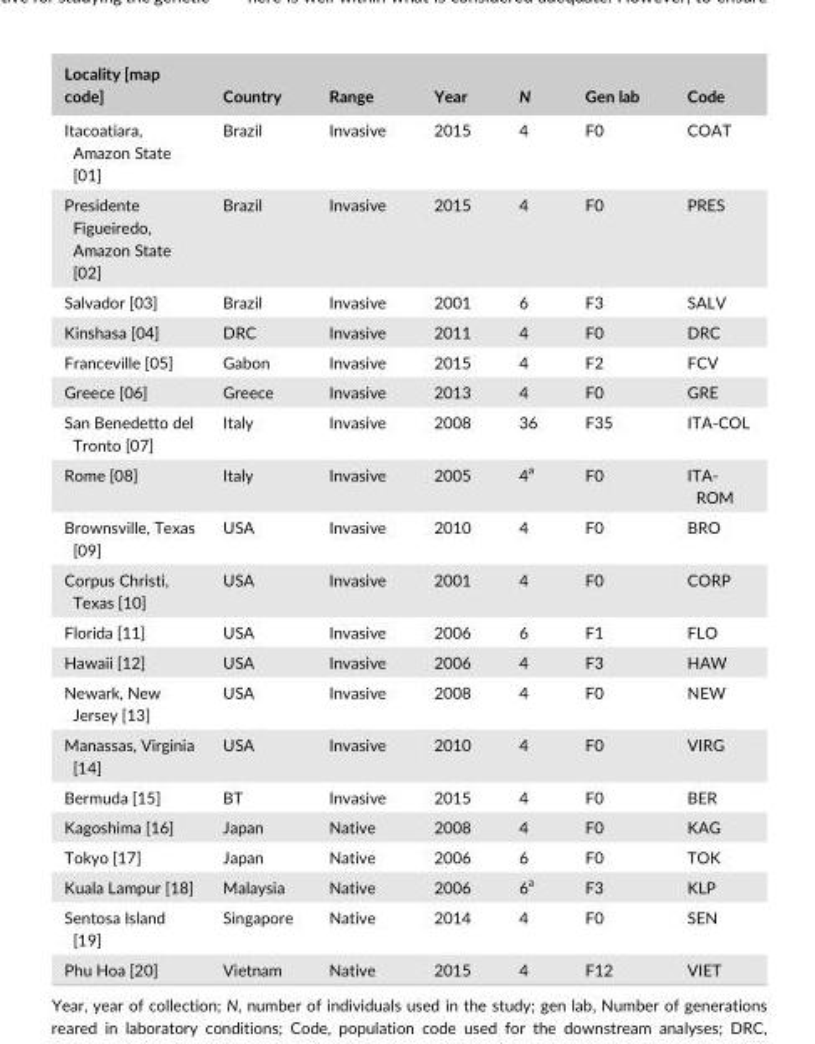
<table><thead><tr><td>Locality [map code]</td><td>Country</td><td>Range</td><td>Year</td><td>N</td><td>Gen lab</td><td>Code</td></tr></thead><tbody><tr><td>Itacoatiara, Amazon State [01]</td><td>Brazil</td><td>Invasive</td><td>2015</td><td>4</td><td>F0</td><td>COAT</td></tr><tr><td>Presidente Figueiredo, Amazon State [02]</td><td>Brazil</td><td>Invasive</td><td>2015</td><td>4</td><td>F0</td><td>PRES</td></tr><tr><td>Salvador [03]</td><td>Brazil</td><td>Invasive</td><td>2001</td><td>6</td><td>F3</td><td>SALV</td></tr><tr><td>Kinshasa [04]</td><td>DRC</td><td>Invasive</td><td>2011</td><td>4</td><td>F0</td><td>DRC</td></tr><tr><td>Franceville [05]</td><td>Gabon</td><td>Invasive</td><td>2015</td><td>4</td><td>F2</td><td>FCV</td></tr><tr><td>Greece [06]</td><td>Greece</td><td>Invasive</td><td>2013</td><td>4</td><td>F0</td><td>GRE</td></tr><tr><td>San Benedetto del Tronto [07]</td><td>Italy</td><td>Invasive</td><td>2008</td><td>36</td><td>F35</td><td>ITA- COL</td></tr><tr><td>Rome [08]</td><td>Italy</td><td>Invasive</td><td>2005</td><td>4<sup>a</sup></td><td>F0</td><td>ITA- ROM</td></tr><tr><td>Brownsville, Texas [09]</td><td>USA</td><td>Invasive</td><td>2010</td><td>4</td><td>F0</td><td>BRO</td></tr><tr><td>Corpus Christi, Texas [10]</td><td>USA</td><td>Invasive</td><td>2001</td><td>4</td><td>F0</td><td>CORP</td></tr><tr><td>Florida [11]</td><td>USA</td><td>Invasive</td><td>2006</td><td>6</td><td>F1</td><td>FLO</td></tr><tr><td>Hawaii [12]</td><td>USA</td><td>Invasive</td><td>2006</td><td>4</td><td>F3</td><td>HAW</td></tr><tr><td>Newark, New Jersey [13]</td><td>USA</td><td>Invasive</td><td>2008</td><td>4</td><td>F0</td><td>NEW</td></tr><tr><td>Manassas, Virginia [14]</td><td>USA</td><td>Invasive</td><td>2010</td><td>4</td><td>F0</td><td>VIRG</td></tr><tr><td>Bermuda [15]</td><td>BT</td><td>Invasive</td><td>2015</td><td>4</td><td>F0</td><td>BER</td></tr><tr><td>Kagoshima [16]</td><td>Japan</td><td>Native</td><td>2008</td><td>4</td><td>F0</td><td>KAG</td></tr><tr><td>Tokyo [17]</td><td>Japan</td><td>Native</td><td>2006</td><td>6</td><td>F0</td><td>TOK</td></tr><tr><td>Kuala Lampur [18]</td><td>Malaysia</td><td>Native</td><td>2006</td><td>6<sup>a</sup></td><td>F3</td><td>KLP</td></tr><tr><td>Sentosa Island [19]</td><td>Singapore</td><td>Native</td><td>2014</td><td>4</td><td>F0</td><td>SEN</td></tr><tr><td>Phu Hoa [20]</td><td>Vietnam</td><td>Native</td><td>2015</td><td>4</td><td>F12</td><td>VIET</td></tr></tbody></table>